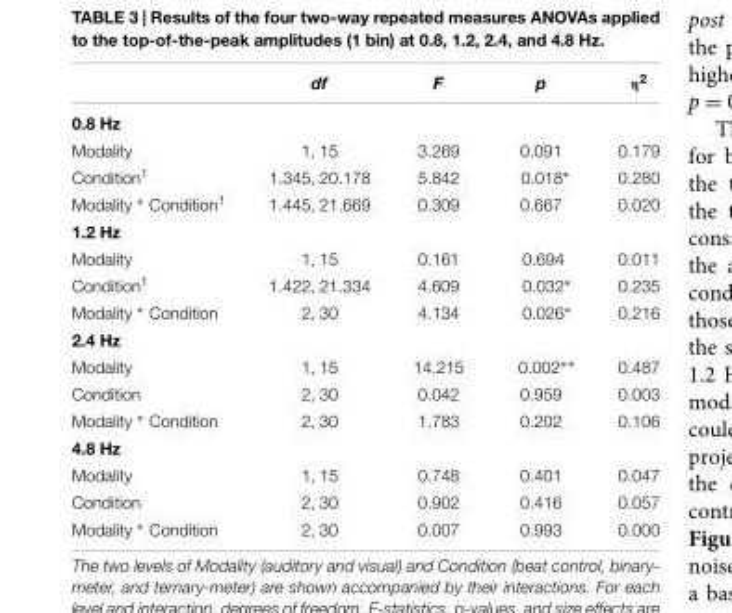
<table><thead><tr><td></td><td>df</td><td>F</td><td>p</td><td>η<sup>2</sup></td></tr></thead><tbody><tr><td colspan="5">0.8 Hz</td></tr><tr><td>Modality</td><td>1, 15</td><td>3.269</td><td>0.091</td><td>0.179</td></tr><tr><td>Condition<sup>1</sup></td><td>1.345, 20.178</td><td>5.842</td><td>0.018∗</td><td>0.280</td></tr><tr><td>Modality ∗ Condition<sup>1</sup></td><td>1.445, 21.669</td><td>0.309</td><td>0.667</td><td>0.020</td></tr><tr><td colspan="5">1.2 Hz</td></tr><tr><td>Modality</td><td>1, 15</td><td>0.161</td><td>0.694</td><td>0.011</td></tr><tr><td>Condition<sup>1</sup></td><td>1.422, 21.334</td><td>4.609</td><td>0.032∗</td><td>0.235</td></tr><tr><td>Modality ∗ Condition</td><td>2, 30</td><td>4.134</td><td>0.026∗</td><td>0.216</td></tr><tr><td colspan="5">2.4 Hz</td></tr><tr><td>Modality</td><td>1, 15</td><td>14.215</td><td>0.002∗∗</td><td>0.487</td></tr><tr><td>Condition</td><td>2, 30</td><td>0.042</td><td>0.959</td><td>0.003</td></tr><tr><td>Modality ∗ Condition</td><td>2, 30</td><td>1.783</td><td>0.202</td><td>0.106</td></tr><tr><td colspan="5">4.8 Hz</td></tr><tr><td>Modality</td><td>1, 15</td><td>0.748</td><td>0.401</td><td>0.047</td></tr><tr><td>Condition</td><td>2, 30</td><td>0.902</td><td>0.416</td><td>0.057</td></tr><tr><td>Modality ∗ Condition</td><td>2, 30</td><td>0.007</td><td>0.993</td><td>0.000</td></tr></tbody></table>